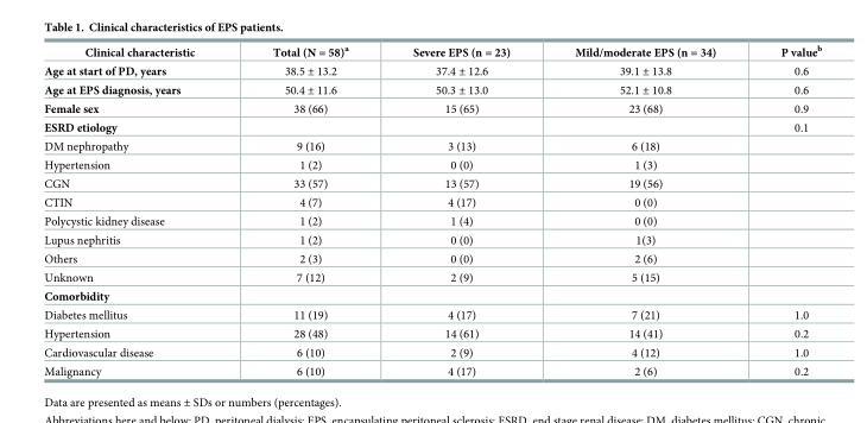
<table><thead><tr><td>Clinical characteristic</td><td>Total (N = 58)<sup>a</sup></td><td>Severe EPS (n = 23)</td><td>Mild/moderate EPS (n = 34)</td><td>P value<sup>b</sup></td></tr></thead><tbody><tr><td>Age at start of PD, years</td><td>38.5 ± 13.2</td><td>37.4 ± 12.6</td><td>39.1 ± 13.8</td><td>0.6</td></tr><tr><td>Age at EPS diagnosis, years</td><td>50.4 ± 11.6</td><td>50.3 ± 13.0</td><td>52.1 ± 10.8</td><td>0.6</td></tr><tr><td>Female sex</td><td>38 (66)</td><td>15 (65)</td><td>23 (68)</td><td>0.9</td></tr><tr><td>ESRD etiology</td><td></td><td></td><td></td><td>0.1</td></tr><tr><td>DM nephropathy</td><td>9 (16)</td><td>3 (13)</td><td>6 (18)</td><td></td></tr><tr><td>Hypertension</td><td>1 (2)</td><td>0 (0)</td><td>1 (3)</td><td></td></tr><tr><td>CGN</td><td>33 (57)</td><td>13 (57)</td><td>19 (56)</td><td></td></tr><tr><td>CTIN</td><td>4 (7)</td><td>4 (17)</td><td>0 (0)</td><td></td></tr><tr><td>Polycystic kidney disease</td><td>1 (2)</td><td>1 (4)</td><td>0 (0)</td><td></td></tr><tr><td>Lupus nephritis</td><td>1 (2)</td><td>0 (0)</td><td>1(3)</td><td></td></tr><tr><td>Others</td><td>2 (3)</td><td>0 (0)</td><td>2 (6)</td><td></td></tr><tr><td>Unknown</td><td>7 (12)</td><td>2 (9)</td><td>5 (15)</td><td></td></tr><tr><td colspan="5">Comorbidity</td></tr><tr><td>Diabetes mellitus</td><td>11 (19)</td><td>4 (17)</td><td>7 (21)</td><td>1.0</td></tr><tr><td>Hypertension</td><td>28 (48)</td><td>14 (61)</td><td>14 (41)</td><td>0.2</td></tr><tr><td>Cardiovascular disease</td><td>6 (10)</td><td>2 (9)</td><td>4 (12)</td><td>1.0</td></tr><tr><td>Malignancy</td><td>6 (10)</td><td>4 (17)</td><td>2 (6)</td><td>0.2</td></tr></tbody></table>